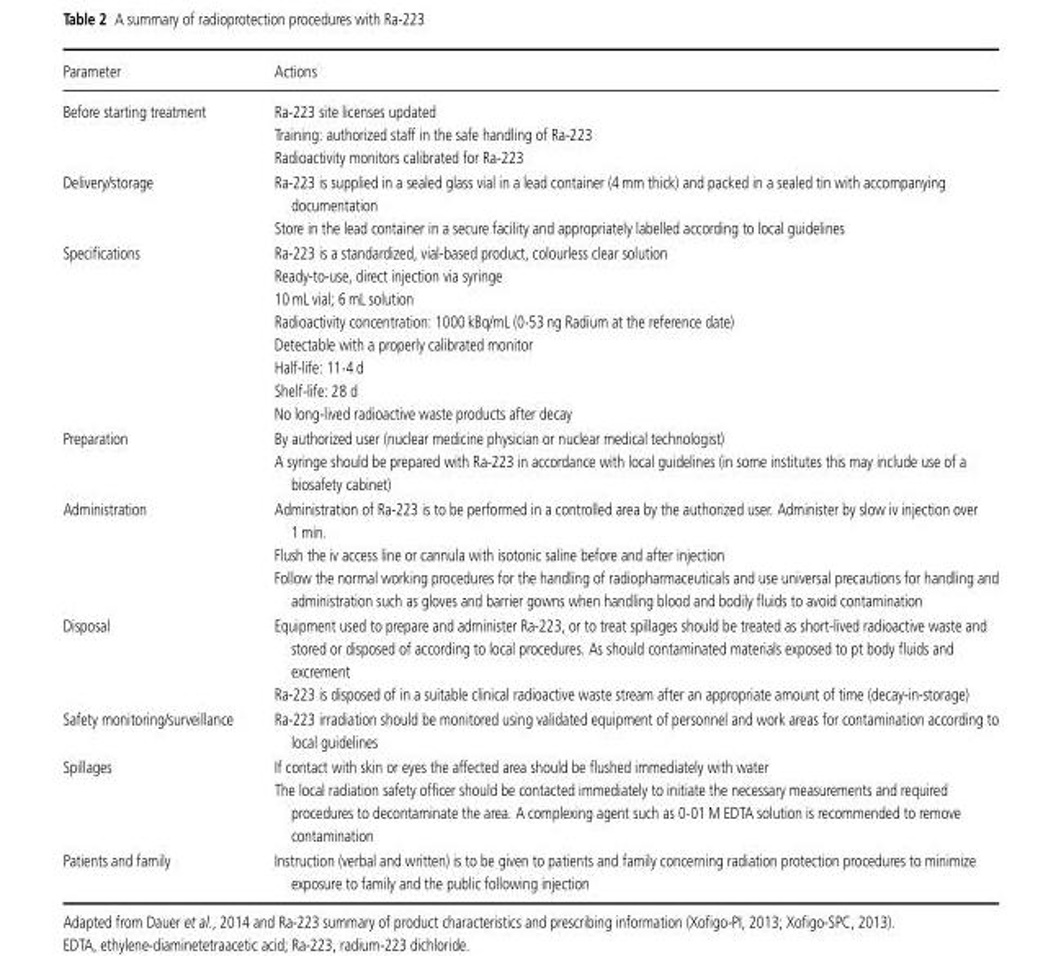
<table><thead><tr><td>Parameter</td><td>Actions</td></tr></thead><tbody><tr><td>Before starting treatment</td><td>Ra-223 site licenses updated Training: authorized staff in the safe handling of Ra-223 Radioactivity monitors calibrated for Ra-223</td></tr><tr><td>Delivery/storage</td><td>Ra-223 is supplied in a sealed glass vial in a lead container (4 mm thick) and packed in a sealed tin with accompanying documentation Store in the lead container in a secure facility and appropriately labelled according to local guidelines</td></tr><tr><td>Specifications</td><td>Ra-223 is a standardized, vial-based product, colourless clear solution Ready-to-use, direct injection via syringe 10 mL vial; 6 mL solution Radioactivity concentration: 1000 kBq/mL (0⋅53 ng Radium at the reference date) Detectable with a properly calibrated monitor Half-life: 11⋅4 d Shelf-life: 28 d No long-lived radioactive waste products after decay</td></tr><tr><td>Preparation</td><td>By authorized user (nuclear medicine physician or nuclear medical technologist) A syringe should be prepared with Ra-223 in accordance with local guidelines (in some institutes this may include use of a biosafety cabinet)</td></tr><tr><td>Administration</td><td>Administration of Ra-223 is to be performed in a controlled area by the authorized user. Administer by slow iv injection over 1 min. Flush the iv access line or cannula with isotonic saline before and after injection Follow the normal working procedures for the handling of radiopharmaceuticals and use universal precautions for handling and administration such as gloves and barrier gowns when handling blood and bodily fluids to avoid contamination</td></tr><tr><td>Disposal</td><td>Equipment used to prepare and administer Ra-223, or to treat spillages should be treated as short-lived radioactive waste and stored or disposed of according to local procedures. As should contaminated materials exposed to pt body fluids and excrement Ra-223 is disposed of in a suitable clinical radioactive waste stream after an appropriate amount of time (decay-in-storage)</td></tr><tr><td>Safety monitoring/surveillance</td><td>Ra-223 irradiation should be monitored using validated equipment of personnel and work areas for contamination according to local guidelines</td></tr><tr><td>Spillages</td><td>If contact with skin or eyes the affected area should be flushed immediately with water The local radiation safety officer should be contacted immediately to initiate the necessary measurements and required procedures to decontaminate the area. A complexing agent such as 0⋅01 M EDTA solution is recommended to remove contamination</td></tr><tr><td>Patients and family</td><td>Instruction (verbal and written) is to be given to patients and family concerning radiation protection procedures to minimize exposure to family and the public following injection</td></tr></tbody></table>